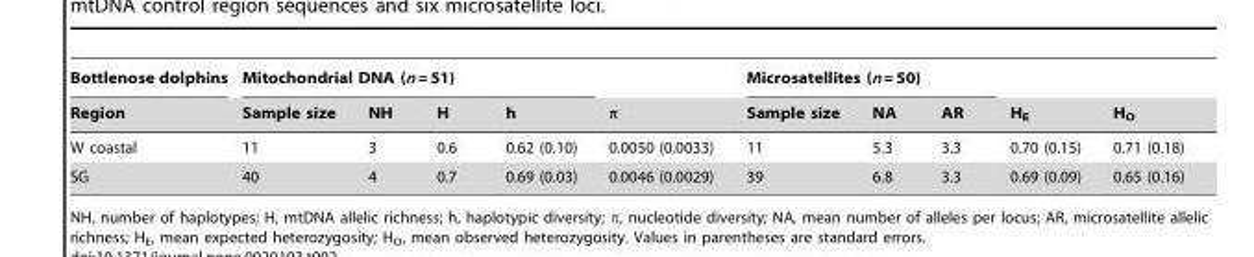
<table><thead><tr><td rowspan="2">Bottlenose dolphins Region</td><td colspan="4">Mitochondrial DNA (n = 51)</td><td rowspan="2">π</td><td colspan="3">Microsatellites (n = 50)</td><td rowspan="2">H<sub>E</sub></td><td rowspan="2">H<sub>O</sub></td></tr><tr><td>Sample size</td><td>NH</td><td>H</td><td>h</td><td>Sample size</td><td>NA</td><td>AR</td></tr></thead><tbody><tr><td>W coastal</td><td>11</td><td>3</td><td>0.6</td><td>0.62 (0.10)</td><td>0.0050 (0.0033)</td><td>11</td><td>5.3</td><td>3.3</td><td>0.70 (0.15)</td><td>0.71 (0.18)</td></tr><tr><td>SG</td><td>40</td><td>4</td><td>0.7</td><td>0.69 (0.03)</td><td>0.0046 (0.0029)</td><td>39</td><td>6.8</td><td>3.3</td><td>0.69 (0.09)</td><td>0.65 (0.16)</td></tr></tbody></table>